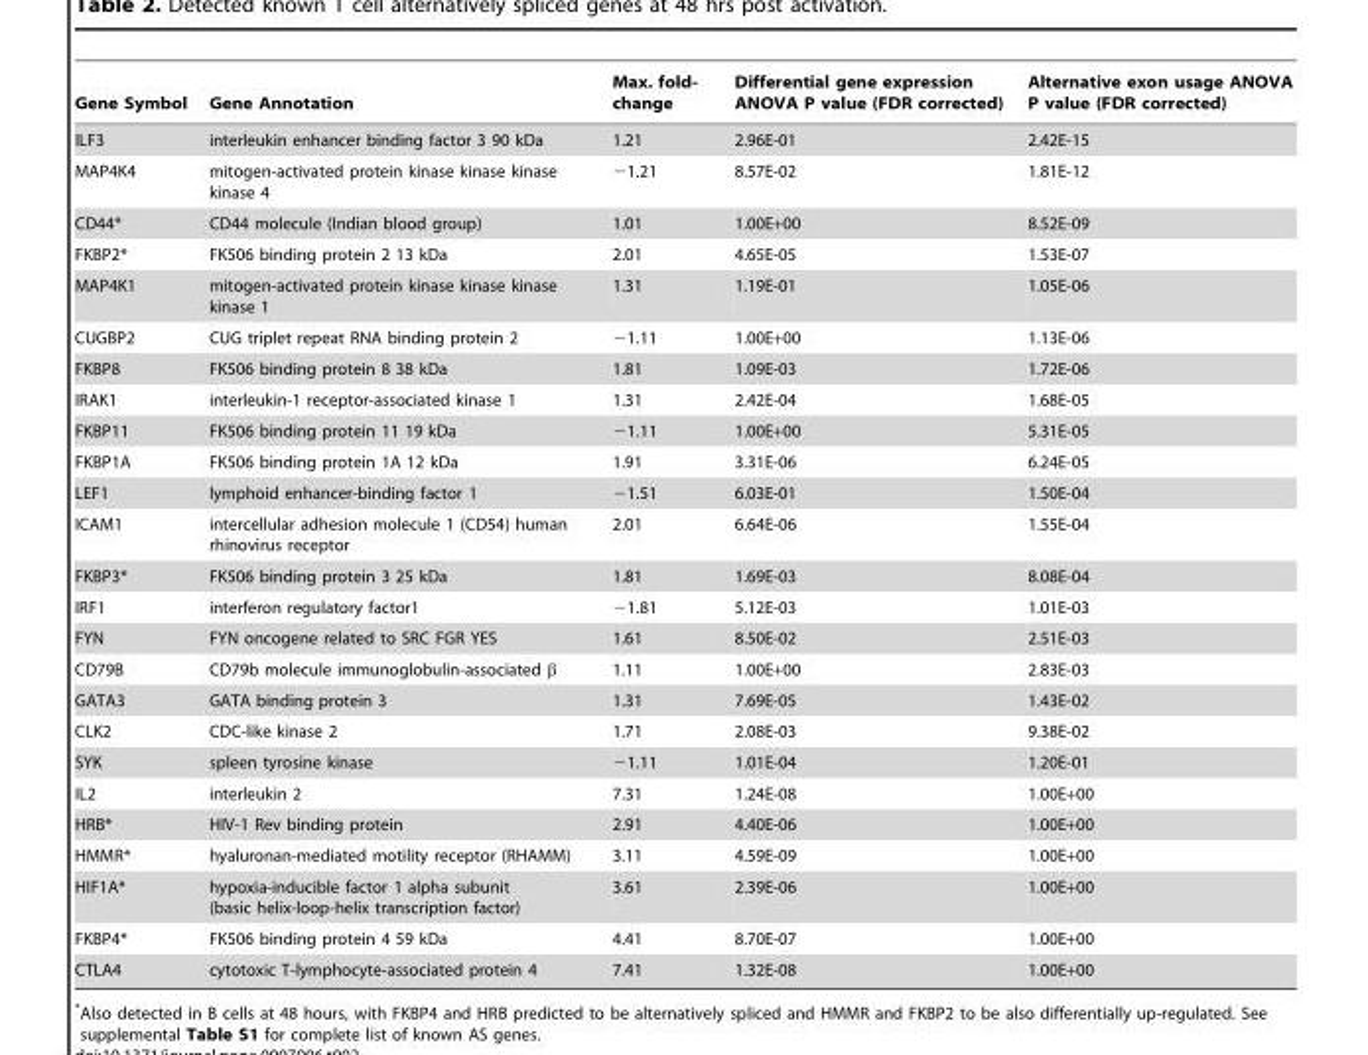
<table><thead><tr><td>Gene Symbol</td><td>Gene Annotation</td><td>Max. fold- change</td><td>Differential gene expression ANOVA P value (FDR corrected)</td><td>Alternative exon usage ANOVA P value (FDR corrected)</td></tr></thead><tbody><tr><td>ILF3</td><td>interleukin enhancer binding factor 3 90 kDa</td><td>1.21</td><td>2.96E-01</td><td>2.42E-15</td></tr><tr><td>MAP4K4</td><td>mitogen-activated protein kinase kinase kinase kinase 4</td><td>−1.21</td><td>8.57E-02</td><td>1.81E-12</td></tr><tr><td>CD44*</td><td>CD44 molecule (Indian blood group)</td><td>1.01</td><td>1.00E+00</td><td>8.52E-09</td></tr><tr><td>FKBP2*</td><td>FK506 binding protein 2 13 kDa</td><td>2.01</td><td>4.65E-05</td><td>1.53E-07</td></tr><tr><td>MAP4K1</td><td>mitogen-activated protein kinase kinase kinase kinase 1</td><td>1.31</td><td>1.19E-01</td><td>1.05E-06</td></tr><tr><td>CUGBP2</td><td>CUG triplet repeat RNA binding protein 2</td><td>−1.11</td><td>1.00E+00</td><td>1.13E-06</td></tr><tr><td>FKBP8</td><td>FK506 binding protein 8 38 kDa</td><td>1.81</td><td>1.09E-03</td><td>1.72E-06</td></tr><tr><td>IRAK1</td><td>interleukin-1 receptor-associated kinase 1</td><td>1.31</td><td>2.42E-04</td><td>1.68E-05</td></tr><tr><td>FKBP11</td><td>FK506 binding protein 11 19 kDa</td><td>−1.11</td><td>1.00E+00</td><td>5.31E-05</td></tr><tr><td>FKBP1A</td><td>FK506 binding protein 1A 12 kDa</td><td>1.91</td><td>3.31E-06</td><td>6.24E-05</td></tr><tr><td>LEF1</td><td>lymphoid enhancer-binding factor 1</td><td>−1.51</td><td>6.03E-01</td><td>1.50E-04</td></tr><tr><td>ICAM1</td><td>intercellular adhesion molecule 1 (CD54) human rhinovirus receptor</td><td>2.01</td><td>6.64E-06</td><td>1.55E-04</td></tr><tr><td>FKBP3*</td><td>FK506 binding protein 3 25 kDa</td><td>1.81</td><td>1.69E-03</td><td>8.08E-04</td></tr><tr><td>IRF1</td><td>interferon regulatory factor1</td><td>−1.81</td><td>5.12E-03</td><td>1.01E-03</td></tr><tr><td>FYN</td><td>FYN oncogene related to SRC FGR YES</td><td>1.61</td><td>8.50E-02</td><td>2.51E-03</td></tr><tr><td>CD79B</td><td>CD79b molecule immunoglobulin-associated β</td><td>1.11</td><td>1.00E+00</td><td>2.83E-03</td></tr><tr><td>GATA3</td><td>GATA binding protein 3</td><td>1.31</td><td>7.69E-05</td><td>1.43E-02</td></tr><tr><td>CLK2</td><td>CDC-like kinase 2</td><td>1.71</td><td>2.08E-03</td><td>9.38E-02</td></tr><tr><td>SYK</td><td>spleen tyrosine kinase</td><td>−1.11</td><td>1.01E-04</td><td>1.20E-01</td></tr><tr><td>IL2</td><td>interleukin 2</td><td>7.31</td><td>1.24E-08</td><td>1.00E+00</td></tr><tr><td>HRB*</td><td>HIV-1 Rev binding protein</td><td>2.91</td><td>4.40E-06</td><td>1.00E+00</td></tr><tr><td>HMMR*</td><td>hyaluronan-mediated motility receptor (RHAMM)</td><td>3.11</td><td>4.59E-09</td><td>1.00E+00</td></tr><tr><td>HIF1A*</td><td>hypoxia-inducible factor 1 alpha subunit (basic helix-loop-helix transcription factor)</td><td>3.61</td><td>2.39E-06</td><td>1.00E+00</td></tr><tr><td>FKBP4*</td><td>FK506 binding protein 4 59 kDa</td><td>4.41</td><td>8.70E-07</td><td>1.00E+00</td></tr><tr><td>CTLA4</td><td>cytotoxic T-lymphocyte-associated protein 4</td><td>7.41</td><td>1.32E-08</td><td>1.00E+00</td></tr></tbody></table>